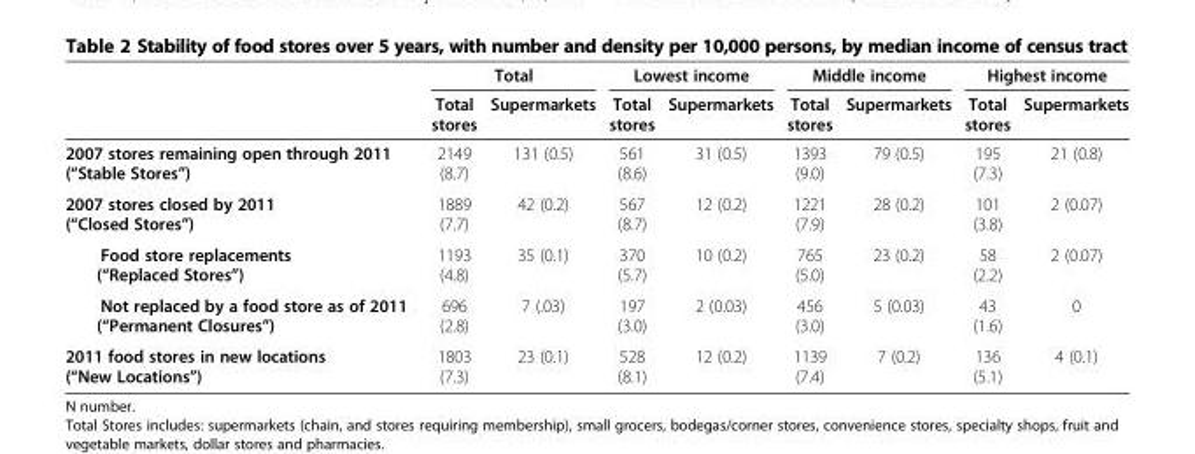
<table><thead><tr><td rowspan="2"></td><td colspan="2">Total</td><td colspan="2">Lowest income</td><td colspan="2">Middle income</td><td colspan="2">Highest income</td></tr><tr><td>Total stores</td><td>Supermarkets</td><td>Total stores</td><td>Supermarkets</td><td>Total stores</td><td>Supermarkets</td><td>Total stores</td><td>Supermarkets</td></tr></thead><tbody><tr><td>2007 stores remaining open through 2011 (“Stable Stores”)</td><td>2149 (8.7)</td><td>131 (0.5)</td><td>561 (8.6)</td><td>31 (0.5)</td><td>1393 (9.0)</td><td>79 (0.5)</td><td>195 (7.3)</td><td>21 (0.8)</td></tr><tr><td>2007 stores closed by 2011 (“Closed Stores”)</td><td>1889 (7.7)</td><td>42 (0.2)</td><td>567 (8.7)</td><td>12 (0.2)</td><td>1221 (7.9)</td><td>28 (0.2)</td><td>101 (3.8)</td><td>2 (0.07)</td></tr><tr><td>Food store replacements (“Replaced Stores”)</td><td>1193 (4.8)</td><td>35 (0.1)</td><td>370 (5.7)</td><td>10 (0.2)</td><td>765 (5.0)</td><td>23 (0.2)</td><td>58 (2.2)</td><td>2 (0.07)</td></tr><tr><td>Not replaced by a food store as of 2011 (“Permanent Closures”)</td><td>696 (2.8)</td><td>7 (.03)</td><td>197 (3.0)</td><td>2 (0.03)</td><td>456 (3.0)</td><td>5 (0.03)</td><td>43 (1.6)</td><td>0</td></tr><tr><td>2011 food stores in new locations (“New Locations”)</td><td>1803 (7.3)</td><td>23 (0.1)</td><td>528 (8.1)</td><td>12 (0.2)</td><td>1139 (7.4)</td><td>7 (0.2)</td><td>136 (5.1)</td><td>4 (0.1)</td></tr></tbody></table>